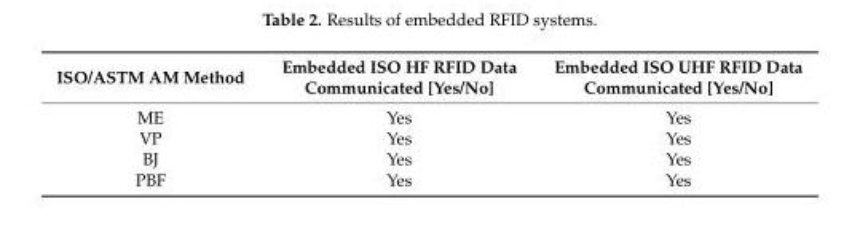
<table><thead><tr><td>ISO/ASTM AM Method</td><td>Embedded ISO HF RFID Data Communicated [Yes/No]</td><td>Embedded ISO UHF RFID Data Communicated [Yes/No]</td></tr></thead><tbody><tr><td>ME</td><td>Yes</td><td>Yes</td></tr><tr><td>VP</td><td>Yes</td><td>Yes</td></tr><tr><td>BJ</td><td>Yes</td><td>Yes</td></tr><tr><td>PBF</td><td>Yes</td><td>Yes</td></tr></tbody></table>